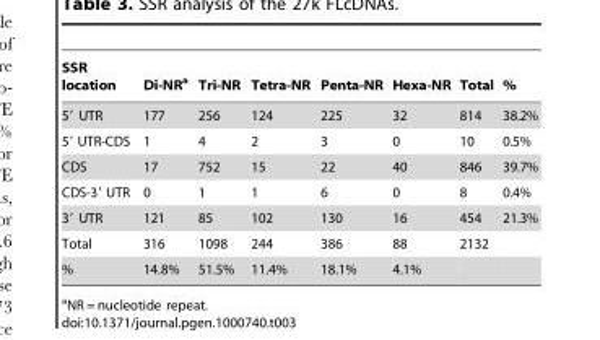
<table><thead><tr><td>SSR location</td><td>Di-NR<sup>a</sup></td><td>Tri-NR</td><td>Tetra-NR</td><td>Penta-NR</td><td>Hexa-NR</td><td>Total</td><td>%</td></tr></thead><tbody><tr><td>5′ UTR</td><td>177</td><td>256</td><td>124</td><td>225</td><td>32</td><td>814</td><td>38.2%</td></tr><tr><td>5′ UTR-CDS</td><td>1</td><td>4</td><td>2</td><td>3</td><td>0</td><td>10</td><td>0.5%</td></tr><tr><td>CDS</td><td>17</td><td>752</td><td>15</td><td>22</td><td>40</td><td>846</td><td>39.7%</td></tr><tr><td>CDS-3′ UTR</td><td>0</td><td>1</td><td>1</td><td>6</td><td>0</td><td>8</td><td>0.4%</td></tr><tr><td>3′ UTR</td><td>121</td><td>85</td><td>102</td><td>130</td><td>16</td><td>454</td><td>21.3%</td></tr><tr><td>Total</td><td>316</td><td>1098</td><td>244</td><td>386</td><td>88</td><td>2132</td><td></td></tr><tr><td>%</td><td>14.8%</td><td>51.5%</td><td>11.4%</td><td>18.1%</td><td>4.1%</td><td></td><td></td></tr></tbody></table>